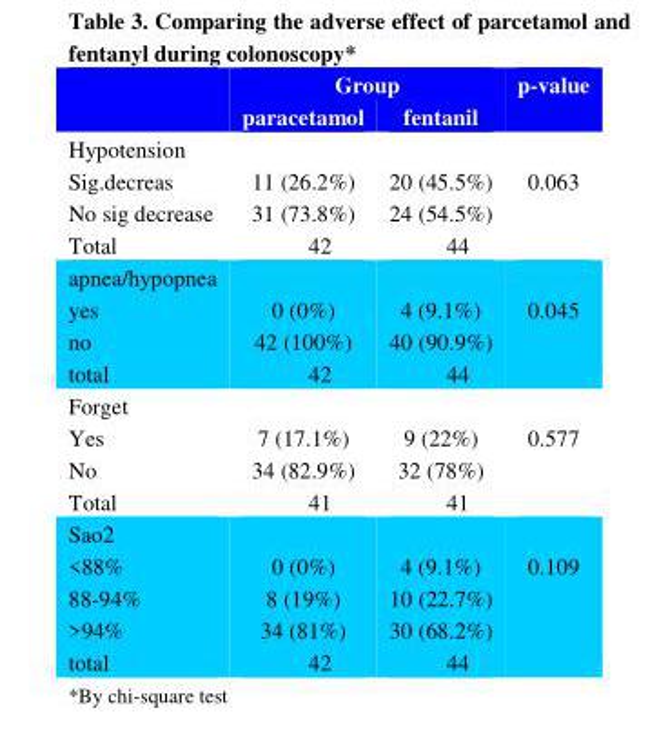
<table><thead><tr><td rowspan="2"></td><td colspan="2">Group</td><td rowspan="2">p-value</td></tr><tr><td>paracetamol</td><td>fentanil</td></tr></thead><tbody><tr><td colspan="4">Hypotension</td></tr><tr><td>Sig.decreas No sig decrease Total</td><td>11 (26.2%) 31 (73.8%) 42</td><td>20 (45.5%) 24 (54.5%) 44</td><td>0.063</td></tr><tr><td colspan="4">apnea/hypopnea</td></tr><tr><td>yes no total</td><td>0 (0%) 42 (100%) 42</td><td>4 (9.1%) 40 (90.9%) 44</td><td>0.045</td></tr><tr><td colspan="4">Forget</td></tr><tr><td>Yes No Total</td><td>7 (17.1%) 34 (82.9%) 41</td><td>9 (22%) 32 (78%) 41</td><td>0.577</td></tr><tr><td colspan="4">Sao2</td></tr><tr><td>&lt;88% 88-94% &gt;94% total</td><td>0 (0%) 8 (19%) 34 (81%) 42</td><td>4 (9.1%) 10 (22.7%) 30 (68.2%) 44</td><td>0.109</td></tr></tbody></table>